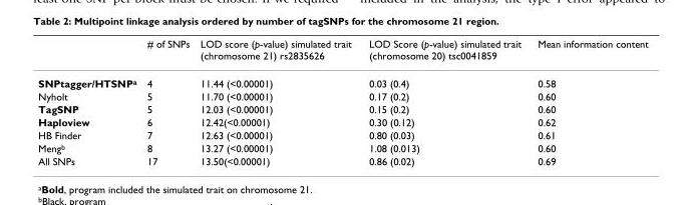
<table><thead><tr><td></td><td># of SNPs</td><td>LOD score (p-value) simulated trait (chromosome 21) rs2835626</td><td>LOD Score (p-value) simulated trait (chromosome 20) tsc0041859</td><td>Mean information content</td></tr></thead><tbody><tr><td>SNPtagger/HTSNPa</td><td>4</td><td>11.44 (&lt;0.00001)</td><td>0.03 (0.4)</td><td>0.58</td></tr><tr><td>Nyholt</td><td>5</td><td>11.70 (&lt;0.00001)</td><td>0.17 (0.2)</td><td>0.60</td></tr><tr><td>TagSNP</td><td>5</td><td>12.03 (&lt;0.00001)</td><td>0.15 (0.2)</td><td>0.60</td></tr><tr><td>Haploview</td><td>6</td><td>12.42(&lt;0.00001)</td><td>0.30 (0.12)</td><td>0.62</td></tr><tr><td>HB Finder</td><td>7</td><td>12.63 (&lt;0.00001)</td><td>0.80 (0.03)</td><td>0.61</td></tr><tr><td>Mengb</td><td>8</td><td>13.27 (&lt;0.00001)</td><td>1.08 (0.013)</td><td>0.60</td></tr><tr><td>All SNPs</td><td>17</td><td>13.50(&lt;0.00001)</td><td>0.86 (0.02)</td><td>0.69</td></tr></tbody></table>